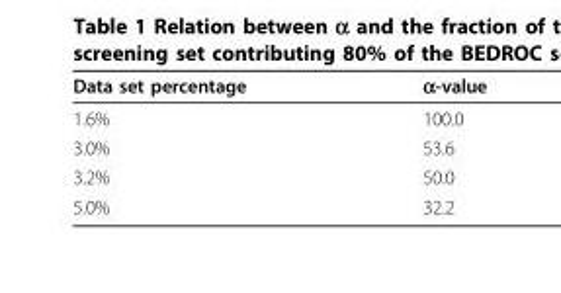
<table><thead><tr><td>Data set percentage</td><td>α-value</td></tr></thead><tbody><tr><td>1.6%</td><td>100.0</td></tr><tr><td>3.0%</td><td>53.6</td></tr><tr><td>3.2%</td><td>50.0</td></tr><tr><td>5.0%</td><td>32.2</td></tr></tbody></table>